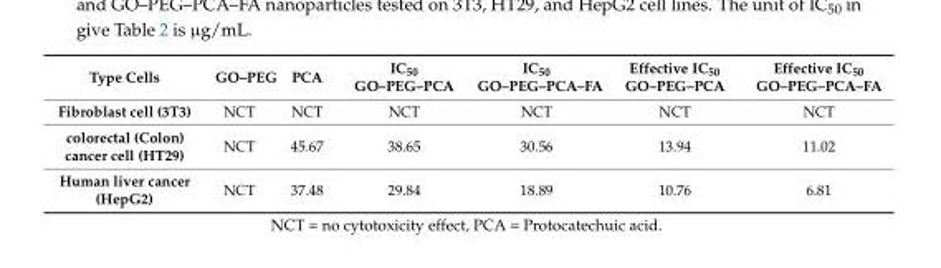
<table><thead><tr><td>Type Cells</td><td>GO–PEG</td><td>PCA</td><td>IC<sub>50</sub> GO–PEG–PCA</td><td>IC<sub>50</sub> GO–PEG–PCA–FA</td><td>Effective IC<sub>50</sub> GO–PEG–PCA</td><td>Effective IC<sub>50</sub> GO–PEG–PCA–FA</td></tr></thead><tbody><tr><td>Fibroblast cell (3T3)</td><td>NCT</td><td>NCT</td><td>NCT</td><td>NCT</td><td>NCT</td><td>NCT</td></tr><tr><td>colorectal (Colon) cancer cell (HT29)</td><td>NCT</td><td>45.67</td><td>38.65</td><td>30.56</td><td>13.94</td><td>11.02</td></tr><tr><td>Human liver cancer (HepG2)</td><td>NCT</td><td>37.48</td><td>29.84</td><td>18.89</td><td>10.76</td><td>6.81</td></tr></tbody></table>